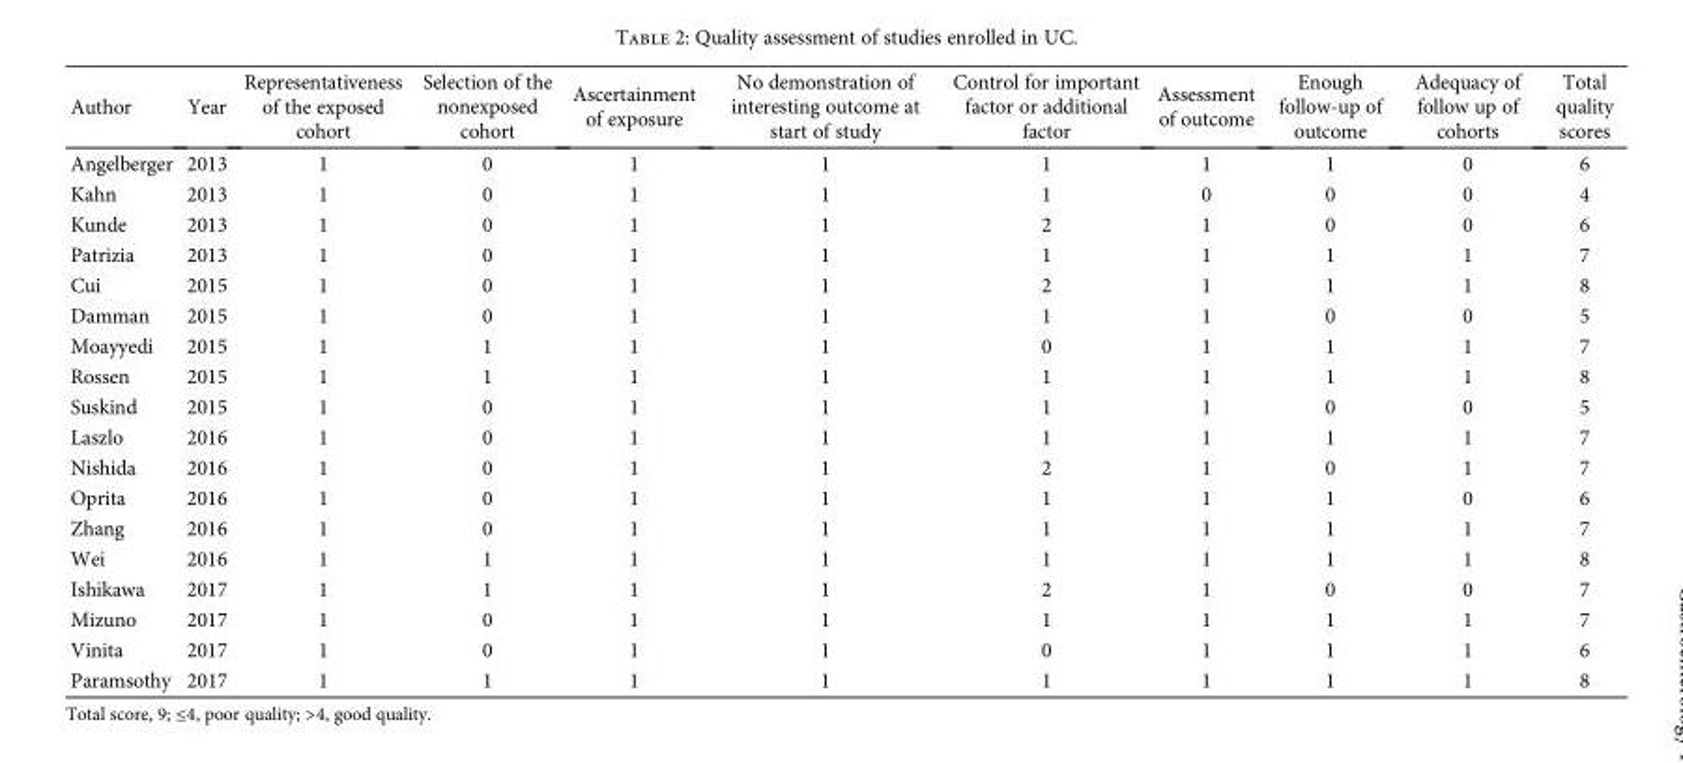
<table><thead><tr><td>Author</td><td>Year</td><td>Representativeness of the exposed cohort</td><td>Selection of the nonexposed cohort</td><td>Ascertainment of exposure</td><td>No demonstration of interesting outcome at start of study</td><td>Control for important factor or additional factor</td><td>Assessment of outcome</td><td>Enough follow-up of outcome</td><td>Adequacy of follow up of cohorts</td><td>Total quality scores</td></tr></thead><tbody><tr><td>Angelberger</td><td>2013</td><td>1</td><td>0</td><td>1</td><td>1</td><td>1</td><td>1</td><td>1</td><td>0</td><td>6</td></tr><tr><td>Kahn</td><td>2013</td><td>1</td><td>0</td><td>1</td><td>1</td><td>1</td><td>0</td><td>0</td><td>0</td><td>4</td></tr><tr><td>Kunde</td><td>2013</td><td>1</td><td>0</td><td>1</td><td>1</td><td>2</td><td>1</td><td>0</td><td>0</td><td>6</td></tr><tr><td>Patrizia</td><td>2013</td><td>1</td><td>0</td><td>1</td><td>1</td><td>1</td><td>1</td><td>1</td><td>1</td><td>7</td></tr><tr><td>Cui</td><td>2015</td><td>1</td><td>0</td><td>1</td><td>1</td><td>2</td><td>1</td><td>1</td><td>1</td><td>8</td></tr><tr><td>Damman</td><td>2015</td><td>1</td><td>0</td><td>1</td><td>1</td><td>1</td><td>1</td><td>0</td><td>0</td><td>5</td></tr><tr><td>Moayyedi</td><td>2015</td><td>1</td><td>1</td><td>1</td><td>1</td><td>0</td><td>1</td><td>1</td><td>1</td><td>7</td></tr><tr><td>Rossen</td><td>2015</td><td>1</td><td>1</td><td>1</td><td>1</td><td>1</td><td>1</td><td>1</td><td>1</td><td>8</td></tr><tr><td>Suskind</td><td>2015</td><td>1</td><td>0</td><td>1</td><td>1</td><td>1</td><td>1</td><td>0</td><td>0</td><td>5</td></tr><tr><td>Laszlo</td><td>2016</td><td>1</td><td>0</td><td>1</td><td>1</td><td>1</td><td>1</td><td>1</td><td>1</td><td>7</td></tr><tr><td>Nishida</td><td>2016</td><td>1</td><td>0</td><td>1</td><td>1</td><td>2</td><td>1</td><td>0</td><td>1</td><td>7</td></tr><tr><td>Oprita</td><td>2016</td><td>1</td><td>0</td><td>1</td><td>1</td><td>1</td><td>1</td><td>1</td><td>0</td><td>6</td></tr><tr><td>Zhang</td><td>2016</td><td>1</td><td>0</td><td>1</td><td>1</td><td>1</td><td>1</td><td>1</td><td>1</td><td>7</td></tr><tr><td>Wei</td><td>2016</td><td>1</td><td>1</td><td>1</td><td>1</td><td>1</td><td>1</td><td>1</td><td>1</td><td>8</td></tr><tr><td>Ishikawa</td><td>2017</td><td>1</td><td>1</td><td>1</td><td>1</td><td>2</td><td>1</td><td>0</td><td>0</td><td>7</td></tr><tr><td>Mizuno</td><td>2017</td><td>1</td><td>0</td><td>1</td><td>1</td><td>1</td><td>1</td><td>1</td><td>1</td><td>7</td></tr><tr><td>Vinita</td><td>2017</td><td>1</td><td>0</td><td>1</td><td>1</td><td>0</td><td>1</td><td>1</td><td>1</td><td>6</td></tr><tr><td>Paramsothy</td><td>2017</td><td>1</td><td>1</td><td>1</td><td>1</td><td>1</td><td>1</td><td>1</td><td>1</td><td>8</td></tr></tbody></table>